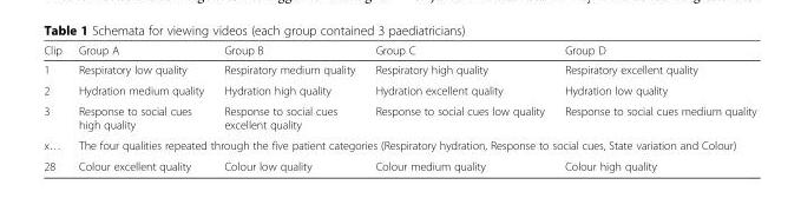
<table><thead><tr><td>Clip</td><td>Group A</td><td>Group B</td><td>Group C</td><td>Group D</td></tr></thead><tbody><tr><td>1</td><td>Respiratory low quality</td><td>Respiratory medium quality</td><td>Respiratory high quality</td><td>Respiratory excellent quality</td></tr><tr><td>2</td><td>Hydration medium quality</td><td>Hydration high quality</td><td>Hydration excellent quality</td><td>Hydration low quality</td></tr><tr><td>3</td><td>Response to social cues high quality</td><td>Response to social cues excellent quality</td><td>Response to social cues low quality</td><td>Response to social cues medium quality</td></tr><tr><td>x…</td><td colspan="4">The four qualities repeated through the five patient categories (Respiratory hydration, Response to social cues, State variation and Colour)</td></tr><tr><td>28</td><td>Colour excellent quality</td><td>Colour low quality</td><td>Colour medium quality</td><td>Colour high quality</td></tr></tbody></table>